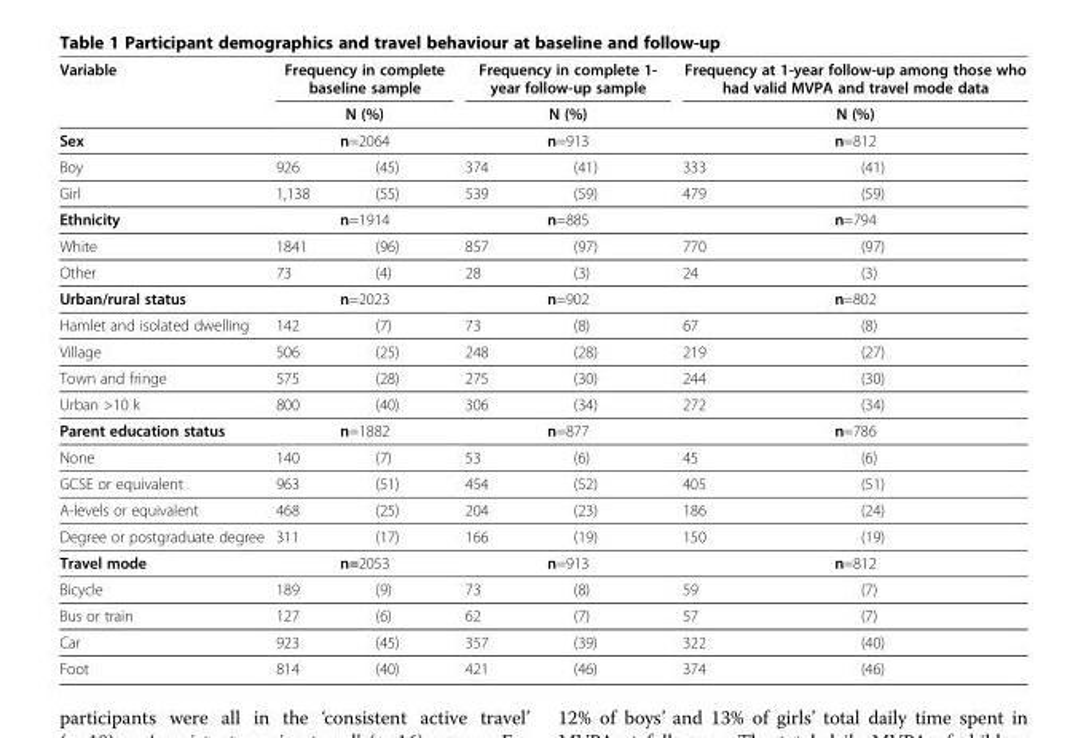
<table><thead><tr><td rowspan="4">Variable Sex Boy</td><td rowspan="3" colspan="2">Frequency in complete baseline sample N (%) n=2064</td><td rowspan="3" colspan="2">Frequency in complete 1- year follow-up sample N (%) n=913</td><td rowspan="3" colspan="2">Frequency at 1-year follow-up among those who had valid MVPA and travel mode data N (%) n=812</td></tr><tr></tr><tr></tr><tr><td>926</td><td>(45)</td><td>374</td><td>(41)</td><td>333</td><td>(41)</td></tr></thead><tbody><tr><td>Girl</td><td>1,138</td><td>(55)</td><td>539</td><td>(59)</td><td>479</td><td>(59)</td></tr><tr><td>Ethnicity</td><td colspan="2">n=1914</td><td colspan="2">n=885</td><td colspan="2">n=794</td></tr><tr><td>White</td><td>1841</td><td>(96)</td><td>857</td><td>(97)</td><td>770</td><td>(97)</td></tr><tr><td>Other</td><td>73</td><td>(4)</td><td>28</td><td>(3)</td><td>24</td><td>(3)</td></tr><tr><td>Urban/rural status</td><td colspan="2">n=2023</td><td colspan="2">n=902</td><td colspan="2">n=802</td></tr><tr><td>Hamlet and isolated dwelling</td><td>142</td><td>(7)</td><td>73</td><td>(8)</td><td>67</td><td>(8)</td></tr><tr><td>Village</td><td>506</td><td>(25)</td><td>248</td><td>(28)</td><td>219</td><td>(27)</td></tr><tr><td>Town and fringe</td><td>575</td><td>(28)</td><td>275</td><td>(30)</td><td>244</td><td>(30)</td></tr><tr><td>Urban &gt;10 k</td><td>800</td><td>(40)</td><td>306</td><td>(34)</td><td>272</td><td>(34)</td></tr><tr><td>Parent education status</td><td colspan="2">n=1882</td><td colspan="2">n=877</td><td colspan="2">n=786</td></tr><tr><td>None</td><td>140</td><td>(7)</td><td>53</td><td>(6)</td><td>45</td><td>(6)</td></tr><tr><td>GCSE or equivalent</td><td>963</td><td>(51)</td><td>454</td><td>(52)</td><td>405</td><td>(51)</td></tr><tr><td>A-levels or equivalent</td><td>468</td><td>(25)</td><td>204</td><td>(23)</td><td>186</td><td>(24)</td></tr><tr><td>Degree or postgraduate degree</td><td>311</td><td>(17)</td><td>166</td><td>(19)</td><td>150</td><td>(19)</td></tr><tr><td>Travel mode</td><td colspan="2">n=2053</td><td colspan="2">n=913</td><td colspan="2">n=812</td></tr><tr><td>Bicycle</td><td>189</td><td>(9)</td><td>73</td><td>(8)</td><td>59</td><td>(7)</td></tr><tr><td>Bus or train</td><td>127</td><td>(6)</td><td>62</td><td>(7)</td><td>57</td><td>(7)</td></tr><tr><td>Car</td><td>923</td><td>(45)</td><td>357</td><td>(39)</td><td>322</td><td>(40)</td></tr><tr><td>Foot</td><td>814</td><td>(40)</td><td>421</td><td>(46)</td><td>374</td><td>(46)</td></tr></tbody></table>